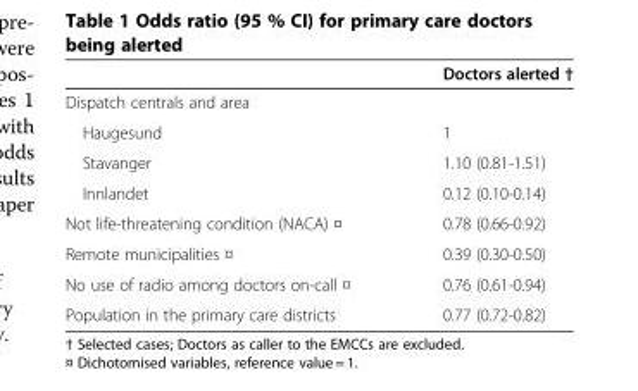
<table><thead><tr><td></td><td>Doctors alerted †</td></tr></thead><tbody><tr><td colspan="2">Dispatch centrals and area</td></tr><tr><td>Haugesund</td><td>1</td></tr><tr><td>Stavanger</td><td>1.10 (0.81-1.51)</td></tr><tr><td>Innlandet</td><td>0.12 (0.10-0.14)</td></tr><tr><td>Not life-threatening condition (NACA) ¤</td><td>0.78 (0.66-0.92)</td></tr><tr><td>Remote municipalities ¤</td><td>0.39 (0.30-0.50)</td></tr><tr><td>No use of radio among doctors on-call ¤</td><td>0.76 (0.61-0.94)</td></tr><tr><td>Population in the primary care districts</td><td>0.77 (0.72-0.82)</td></tr></tbody></table>